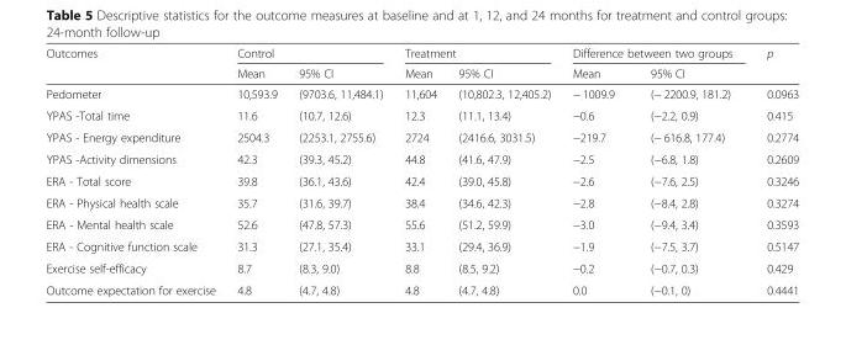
<table><thead><tr><td rowspan="2">Outcomes</td><td colspan="2">Control</td><td colspan="2">Treatment</td><td colspan="2">Difference between two groups</td><td rowspan="2">p</td></tr><tr><td>Mean</td><td>95% CI</td><td>Mean</td><td>95% CI</td><td>Mean</td><td>95% CI</td></tr></thead><tbody><tr><td>Pedometer</td><td>10,593.9</td><td>(9703.6, 11,484.1)</td><td>11,604</td><td>(10,802.3, 12,405.2)</td><td>− 1009.9</td><td>(− 2200.9, 181.2)</td><td>0.0963</td></tr><tr><td>YPAS -Total time</td><td>11.6</td><td>(10.7, 12.6)</td><td>12.3</td><td>(11.1, 13.4)</td><td>−0.6</td><td>(−2.2, 0.9)</td><td>0.415</td></tr><tr><td>YPAS - Energy expenditure</td><td>2504.3</td><td>(2253.1, 2755.6)</td><td>2724</td><td>(2416.6, 3031.5)</td><td>−219.7</td><td>(− 616.8, 177.4)</td><td>0.2774</td></tr><tr><td>YPAS -Activity dimensions</td><td>42.3</td><td>(39.3, 45.2)</td><td>44.8</td><td>(41.6, 47.9)</td><td>−2.5</td><td>(−6.8, 1.8)</td><td>0.2609</td></tr><tr><td>ERA - Total score</td><td>39.8</td><td>(36.1, 43.6)</td><td>42.4</td><td>(39.0, 45.8)</td><td>−2.6</td><td>(−7.6, 2.5)</td><td>0.3246</td></tr><tr><td>ERA - Physical health scale</td><td>35.7</td><td>(31.6, 39.7)</td><td>38.4</td><td>(34.6, 42.3)</td><td>−2.8</td><td>(−8.4, 2.8)</td><td>0.3274</td></tr><tr><td>ERA - Mental health scale</td><td>52.6</td><td>(47.8, 57.3)</td><td>55.6</td><td>(51.2, 59.9)</td><td>−3.0</td><td>(−9.4, 3.4)</td><td>0.3593</td></tr><tr><td>ERA - Cognitive function scale</td><td>31.3</td><td>(27.1, 35.4)</td><td>33.1</td><td>(29.4, 36.9)</td><td>−1.9</td><td>(−7.5, 3.7)</td><td>0.5147</td></tr><tr><td>Exercise self-efficacy</td><td>8.7</td><td>(8.3, 9.0)</td><td>8.8</td><td>(8.5, 9.2)</td><td>−0.2</td><td>(−0.7, 0.3)</td><td>0.429</td></tr><tr><td>Outcome expectation for exercise</td><td>4.8</td><td>(4.7, 4.8)</td><td>4.8</td><td>(4.7, 4.8)</td><td>0.0</td><td>(−0.1, 0)</td><td>0.4441</td></tr></tbody></table>